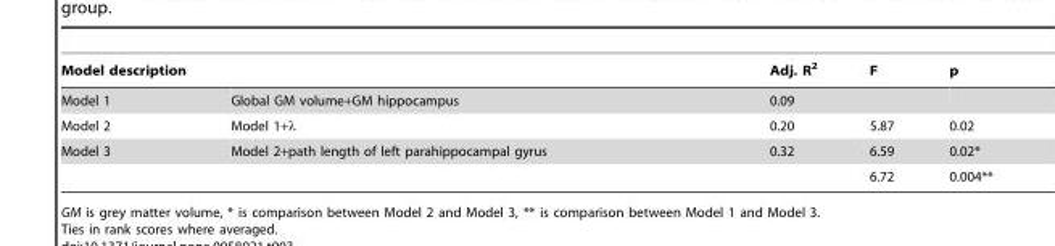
<table><thead><tr><td>Model description</td><td></td><td>Adj. R<sup>2</sup></td><td>F</td><td>p</td></tr></thead><tbody><tr><td>Model 1</td><td>Global GM volume+GM hippocampus</td><td>0.09</td><td></td><td></td></tr><tr><td>Model 2</td><td>Model 1+λ</td><td>0.20</td><td>5.87</td><td>0.02</td></tr><tr><td rowspan="2">Model 3</td><td>Model 2+path length of left parahippocampal gyrus</td><td>0.32</td><td>6.59</td><td>0.02*</td></tr><tr><td></td><td></td><td>6.72</td><td>0.004**</td></tr></tbody></table>